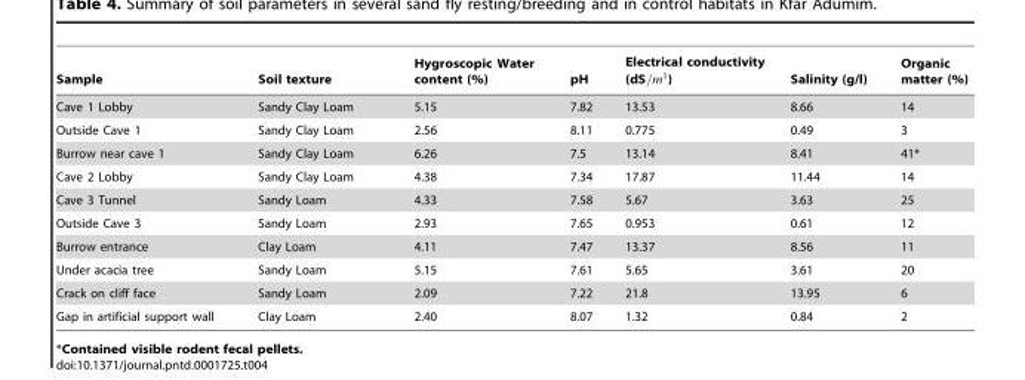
<table><thead><tr><td>Sample</td><td>Soil texture</td><td>Hygroscopic Water content (%)</td><td>pH</td><td>Electrical conductivity (dS=m1)</td><td>Salinity (g/l)</td><td>Organic matter (%)</td></tr></thead><tbody><tr><td>Cave 1 Lobby</td><td>Sandy Clay Loam</td><td>5.15</td><td>7.82</td><td>13.53</td><td>8.66</td><td>14</td></tr><tr><td>Outside Cave 1</td><td>Sandy Clay Loam</td><td>2.56</td><td>8.11</td><td>0.775</td><td>0.49</td><td>3</td></tr><tr><td>Burrow near cave 1</td><td>Sandy Clay Loam</td><td>6.26</td><td>7.5</td><td>13.14</td><td>8.41</td><td>41*</td></tr><tr><td>Cave 2 Lobby</td><td>Sandy Clay Loam</td><td>4.38</td><td>7.34</td><td>17.87</td><td>11.44</td><td>14</td></tr><tr><td>Cave 3 Tunnel</td><td>Sandy Loam</td><td>4.33</td><td>7.58</td><td>5.67</td><td>3.63</td><td>25</td></tr><tr><td>Outside Cave 3</td><td>Sandy Loam</td><td>2.93</td><td>7.65</td><td>0.953</td><td>0.61</td><td>12</td></tr><tr><td>Burrow entrance</td><td>Clay Loam</td><td>4.11</td><td>7.47</td><td>13.37</td><td>8.56</td><td>11</td></tr><tr><td>Under acacia tree</td><td>Sandy Loam</td><td>5.15</td><td>7.61</td><td>5.65</td><td>3.61</td><td>20</td></tr><tr><td>Crack on cliff face</td><td>Sandy Loam</td><td>2.09</td><td>7.22</td><td>21.8</td><td>13.95</td><td>6</td></tr><tr><td>Gap in artificial support wall</td><td>Clay Loam</td><td>2.40</td><td>8.07</td><td>1.32</td><td>0.84</td><td>2</td></tr></tbody></table>